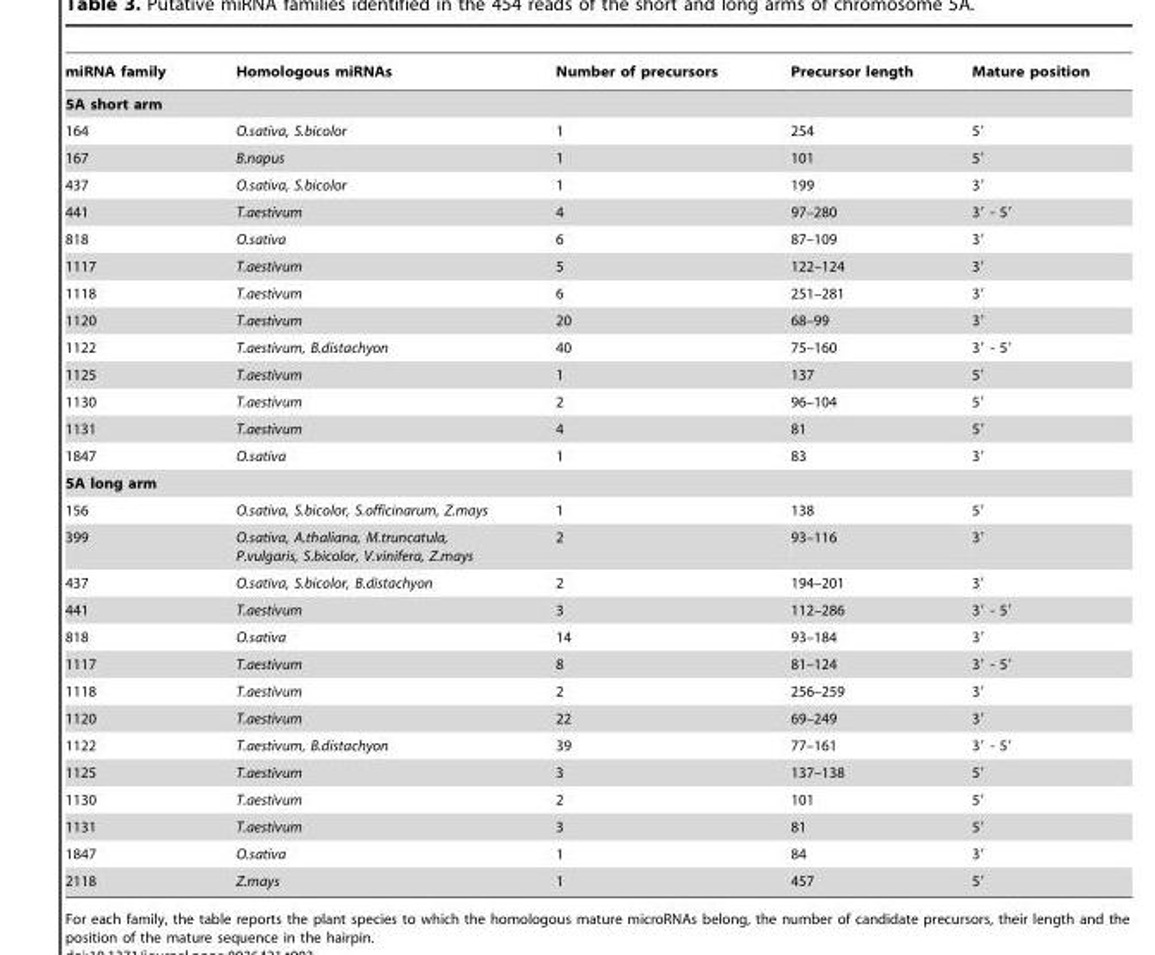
<table><thead><tr><td>miRNA family</td><td>Homologous miRNAs</td><td>Number of precursors</td><td>Precursor length</td><td>Mature position</td></tr></thead><tbody><tr><td colspan="5">5A short arm</td></tr><tr><td>164</td><td>O.sativa, S.bicolor</td><td>1</td><td>254</td><td>5′</td></tr><tr><td>167</td><td>B.napus</td><td>1</td><td>101</td><td>5′</td></tr><tr><td>437</td><td>O.sativa, S.bicolor</td><td>1</td><td>199</td><td>3′</td></tr><tr><td>441</td><td>T.aestivum</td><td>4</td><td>97–280</td><td>3′ - 5′</td></tr><tr><td>818</td><td>O.sativa</td><td>6</td><td>87–109</td><td>3′</td></tr><tr><td>1117</td><td>T.aestivum</td><td>5</td><td>122–124</td><td>3′</td></tr><tr><td>1118</td><td>T.aestivum</td><td>6</td><td>251–281</td><td>3′</td></tr><tr><td>1120</td><td>T.aestivum</td><td>20</td><td>68–99</td><td>3′</td></tr><tr><td>1122</td><td>T.aestivum, B.distachyon</td><td>40</td><td>75–160</td><td>3′ - 5′</td></tr><tr><td>1125</td><td>T.aestivum</td><td>1</td><td>137</td><td>5′</td></tr><tr><td>1130</td><td>T.aestivum</td><td>2</td><td>96–104</td><td>5′</td></tr><tr><td>1131</td><td>T.aestivum</td><td>4</td><td>81</td><td>5′</td></tr><tr><td>1847</td><td>O.sativa</td><td>1</td><td>83</td><td>3′</td></tr><tr><td colspan="5">5A long arm</td></tr><tr><td>156</td><td>O.sativa, S.bicolor, S.officinarum, Z.mays</td><td>1</td><td>138</td><td>5′</td></tr><tr><td>399</td><td>O.sativa, A.thaliana, M.truncatula, P.vulgaris, S.bicolor, V.vinifera, Z.mays</td><td>2</td><td>93–116</td><td>3′</td></tr><tr><td>437</td><td>O.sativa, S.bicolor, B.distachyon</td><td>2</td><td>194–201</td><td>3′</td></tr><tr><td>441</td><td>T.aestivum</td><td>3</td><td>112–286</td><td>3′ - 5′</td></tr><tr><td>818</td><td>O.sativa</td><td>14</td><td>93–184</td><td>3′</td></tr><tr><td>1117</td><td>T.aestivum</td><td>8</td><td>81–124</td><td>3′ - 5′</td></tr><tr><td>1118</td><td>T.aestivum</td><td>2</td><td>256–259</td><td>3′</td></tr><tr><td>1120</td><td>T.aestivum</td><td>22</td><td>69–249</td><td>3′</td></tr><tr><td>1122</td><td>T.aestivum, B.distachyon</td><td>39</td><td>77–161</td><td>3′ - 5′</td></tr><tr><td>1125</td><td>T.aestivum</td><td>3</td><td>137–138</td><td>5′</td></tr><tr><td>1130</td><td>T.aestivum</td><td>2</td><td>101</td><td>5′</td></tr><tr><td>1131</td><td>T.aestivum</td><td>3</td><td>81</td><td>5′</td></tr><tr><td>1847</td><td>O.sativa</td><td>1</td><td>84</td><td>3′</td></tr><tr><td>2118</td><td>Z.mays</td><td>1</td><td>457</td><td>5′</td></tr></tbody></table>